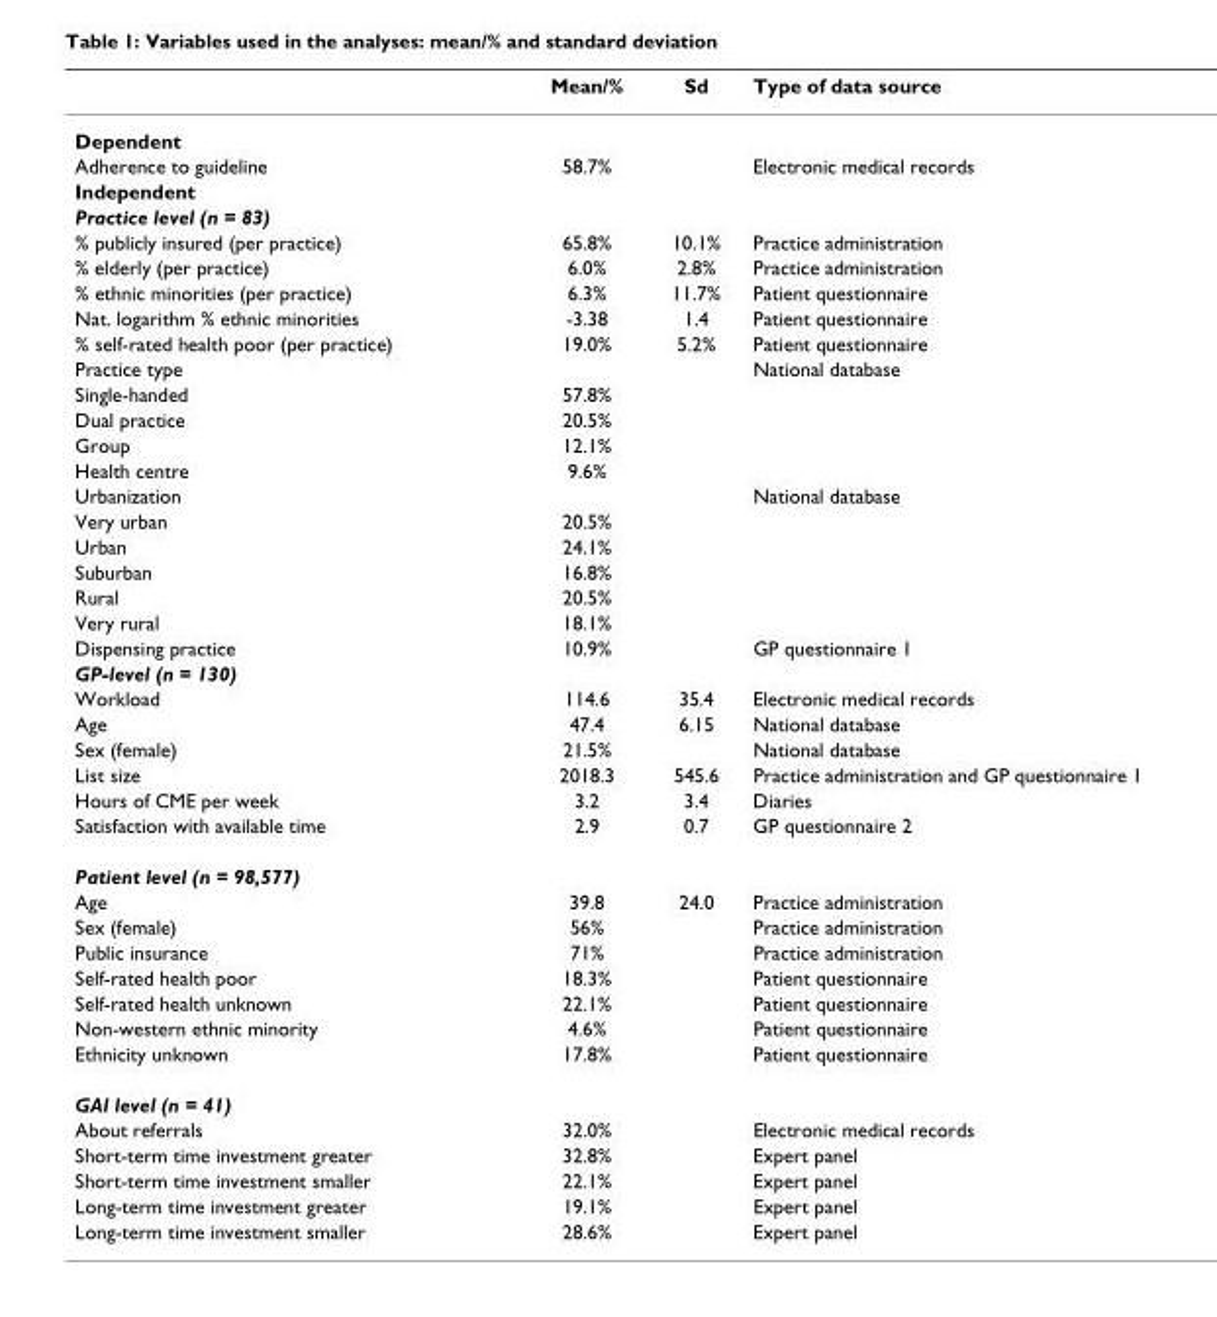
<table><thead><tr><td></td><td>Mean/%</td><td>Sd</td><td>Type of data source</td></tr></thead><tbody><tr><td colspan="4">Dependent</td></tr><tr><td>Adherence to guideline</td><td>58.7%</td><td></td><td>Electronic medical records</td></tr><tr><td colspan="4">Independent</td></tr><tr><td colspan="4">Practice level (n = 83)</td></tr><tr><td>% publicly insured (per practice)</td><td>65.8%</td><td>10.1%</td><td>Practice administration</td></tr><tr><td>% elderly (per practice)</td><td>6.0%</td><td>2.8%</td><td>Practice administration</td></tr><tr><td>% ethnic minorities (per practice)</td><td>6.3%</td><td>11.7%</td><td>Patient questionnaire</td></tr><tr><td>Nat. logarithm % ethnic minorities</td><td>-3.38</td><td>1.4</td><td>Patient questionnaire</td></tr><tr><td>% self-rated health poor (per practice)</td><td>19.0%</td><td>5.2%</td><td>Patient questionnaire</td></tr><tr><td>Practice type</td><td></td><td></td><td>National database</td></tr><tr><td>Single-handed</td><td>57.8%</td><td></td><td></td></tr><tr><td>Dual practice</td><td>20.5%</td><td></td><td></td></tr><tr><td>Group</td><td>12.1%</td><td></td><td></td></tr><tr><td>Health centre</td><td>9.6%</td><td></td><td></td></tr><tr><td>Urbanization</td><td></td><td></td><td>National database</td></tr><tr><td>Very urban</td><td>20.5%</td><td></td><td></td></tr><tr><td>Urban</td><td>24.1%</td><td></td><td></td></tr><tr><td>Suburban</td><td>16.8%</td><td></td><td></td></tr><tr><td>Rural</td><td>20.5%</td><td></td><td></td></tr><tr><td>Very rural</td><td>18.1%</td><td></td><td></td></tr><tr><td>Dispensing practice</td><td>10.9%</td><td></td><td>GP questionnaire 1</td></tr><tr><td colspan="4">GP-level (n = 130)</td></tr><tr><td>Workload</td><td>114.6</td><td>35.4</td><td>Electronic medical records</td></tr><tr><td>Age</td><td>47.4</td><td>6.15</td><td>National database</td></tr><tr><td>Sex (female)</td><td>21.5%</td><td></td><td>National database</td></tr><tr><td>List size</td><td>2018.3</td><td>545.6</td><td>Practice administration and GP questionnaire 1</td></tr><tr><td>Hours of CME per week</td><td>3.2</td><td>3.4</td><td>Diaries</td></tr><tr><td>Satisfaction with available time</td><td>2.9</td><td>0.7</td><td>GP questionnaire 2</td></tr><tr><td colspan="4">Patient level (n = 98,577)</td></tr><tr><td>Age</td><td>39.8</td><td>24.0</td><td>Practice administration</td></tr><tr><td>Sex (female)</td><td>56%</td><td></td><td>Practice administration</td></tr><tr><td>Public insurance</td><td>71%</td><td></td><td>Practice administration</td></tr><tr><td>Self-rated health poor</td><td>18.3%</td><td></td><td>Patient questionnaire</td></tr><tr><td>Self-rated health unknown</td><td>22.1%</td><td></td><td>Patient questionnaire</td></tr><tr><td>Non-western ethnic minority</td><td>4.6%</td><td></td><td>Patient questionnaire</td></tr><tr><td>Ethnicity unknown</td><td>17.8%</td><td></td><td>Patient questionnaire</td></tr><tr><td colspan="4">GAI level (n = 41)</td></tr><tr><td>About referrals</td><td>32.0%</td><td></td><td>Electronic medical records</td></tr><tr><td>Short-term time investment greater</td><td>32.8%</td><td></td><td>Expert panel</td></tr><tr><td>Short-term time investment smaller</td><td>22.1%</td><td></td><td>Expert panel</td></tr><tr><td>Long-term time investment greater</td><td>19.1%</td><td></td><td>Expert panel</td></tr><tr><td>Long-term time investment smaller</td><td>28.6%</td><td></td><td>Expert panel</td></tr></tbody></table>